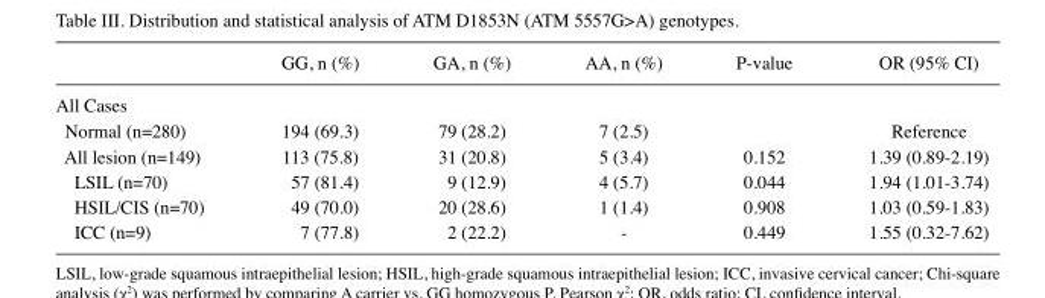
<table><thead><tr><td></td><td>GG, n (%)</td><td>GA, n (%)</td><td>AA, n (%)</td><td>P-value</td><td>OR (95% CI)</td></tr></thead><tbody><tr><td colspan="6">All Cases</td></tr><tr><td>Normal (n=280)</td><td>194 (69.3)</td><td>79 (28.2)</td><td>7 (2.5)</td><td></td><td>Reference</td></tr><tr><td>All lesion (n=149)</td><td>113 (75.8)</td><td>31 (20.8)</td><td>5 (3.4)</td><td>0.152</td><td>1.39 (0.89-2.19)</td></tr><tr><td>LSIL (n=70)</td><td>57 (81.4)</td><td>9 (12.9)</td><td>4 (5.7)</td><td>0.044</td><td>1.94 (1.01-3.74)</td></tr><tr><td>HSIL/CIS (n=70)</td><td>49 (70.0)</td><td>20 (28.6)</td><td>1 (1.4)</td><td>0.908</td><td>1.03 (0.59-1.83)</td></tr><tr><td>ICC (n=9)</td><td>7 (77.8)</td><td>2 (22.2)</td><td>-</td><td>0.449</td><td>1.55 (0.32-7.62)</td></tr></tbody></table>